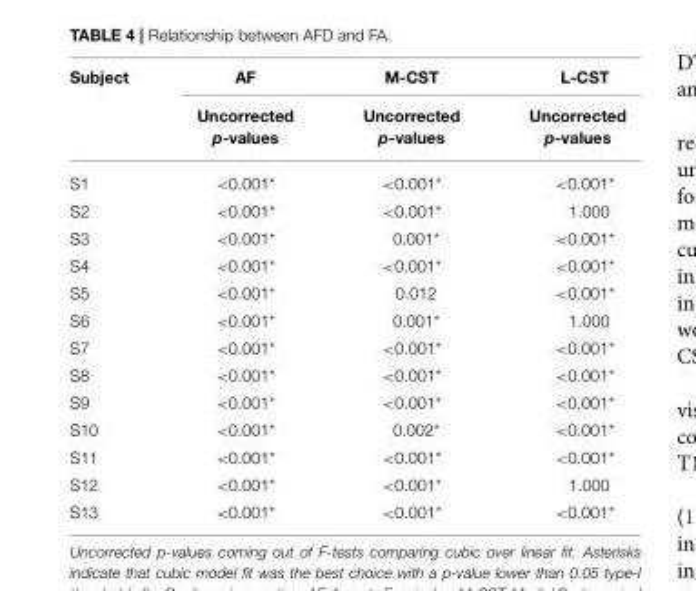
<table><thead><tr><td rowspan="2">Subject</td><td rowspan="2">AF Uncorrected p-values</td><td rowspan="2">M-CST Uncorrected p-values</td><td rowspan="2">L-CST Uncorrected p-values</td></tr><tr></tr></thead><tbody><tr><td>S1</td><td>&lt;0.001*</td><td>&lt;0.001*</td><td>&lt;0.001*</td></tr><tr><td>S2</td><td>&lt;0.001*</td><td>&lt;0.001*</td><td>1.000</td></tr><tr><td>S3</td><td>&lt;0.001*</td><td>0.001*</td><td>&lt;0.001*</td></tr><tr><td>S4</td><td>&lt;0.001*</td><td>&lt;0.001*</td><td>&lt;0.001*</td></tr><tr><td>S5</td><td>&lt;0.001*</td><td>0.012</td><td>&lt;0.001*</td></tr><tr><td>S6</td><td>&lt;0.001*</td><td>0.001*</td><td>1.000</td></tr><tr><td>S7</td><td>&lt;0.001*</td><td>&lt;0.001*</td><td>&lt;0.001*</td></tr><tr><td>S8</td><td>&lt;0.001*</td><td>&lt;0.001*</td><td>&lt;0.001*</td></tr><tr><td>S9</td><td>&lt;0.001*</td><td>&lt;0.001*</td><td>&lt;0.001*</td></tr><tr><td>S10</td><td>&lt;0.001*</td><td>0.002*</td><td>&lt;0.001*</td></tr><tr><td>S11</td><td>&lt;0.001*</td><td>&lt;0.001*</td><td>&lt;0.001*</td></tr><tr><td>S12</td><td>&lt;0.001*</td><td>&lt;0.001*</td><td>1.000</td></tr><tr><td>S13</td><td>&lt;0.001*</td><td>&lt;0.001*</td><td>&lt;0.001*</td></tr></tbody></table>